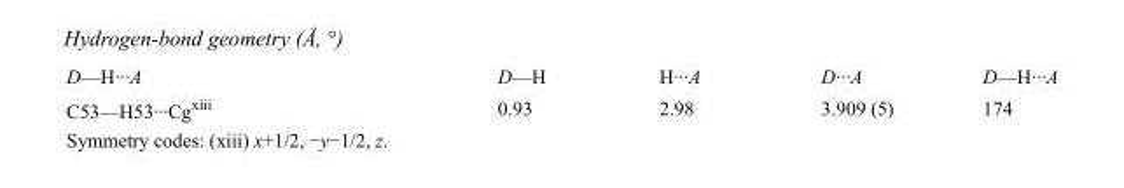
<table><tbody><tr><td>D—H···A</td><td>D—H</td><td>H···A</td><td>D···A</td><td>D—H···A</td></tr><tr><td>C53—H53···Cg<sup>xiii</sup></td><td>0.93</td><td>2.98</td><td>3.909 (5)</td><td>174</td></tr></tbody></table>